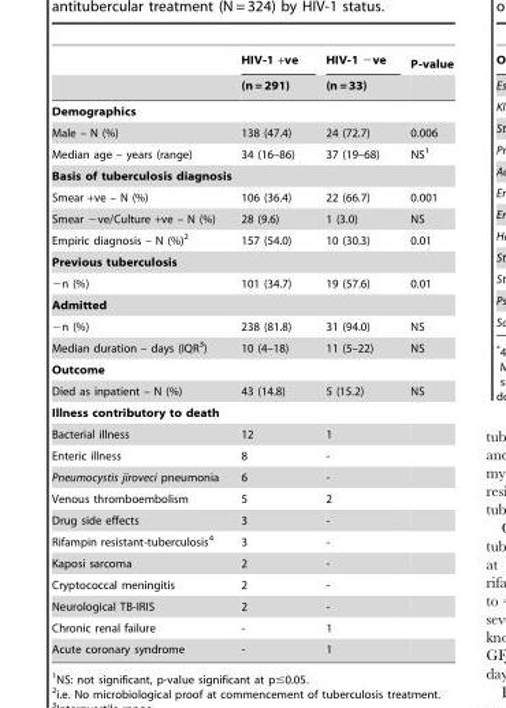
<table><thead><tr><td rowspan="2"></td><td rowspan="2">HIV-1 +ve (n = 291)</td><td rowspan="2">HIV-1 −ve (n = 33)</td><td rowspan="2">P-value</td></tr><tr></tr></thead><tbody><tr><td colspan="4">Demographics</td></tr><tr><td>Male – N (%)</td><td>138 (47.4)</td><td>24 (72.7)</td><td>0.006</td></tr><tr><td>Median age – years (range)</td><td>34 (16–86)</td><td>37 (19–68)</td><td>NS<sup>1</sup></td></tr><tr><td colspan="4">Basis of tuberculosis diagnosis</td></tr><tr><td>Smear +ve – N (%)</td><td>106 (36.4)</td><td>22 (66.7)</td><td>0.001</td></tr><tr><td>Smear −ve/Culture +ve – N (%)</td><td>28 (9.6)</td><td>1 (3.0)</td><td>NS</td></tr><tr><td>Empiric diagnosis – N (%)<sup>2</sup></td><td>157 (54.0)</td><td>10 (30.3)</td><td>0.01</td></tr><tr><td colspan="4">Previous tuberculosis</td></tr><tr><td>−n (%)</td><td>101 (34.7)</td><td>19 (57.6)</td><td>0.01</td></tr><tr><td colspan="4">Admitted</td></tr><tr><td>−n (%)</td><td>238 (81.8)</td><td>31 (94.0)</td><td>NS</td></tr><tr><td>Median duration – days (IQR<sup>3</sup>)</td><td>10 (4–18)</td><td>11 (5–22)</td><td>NS</td></tr><tr><td colspan="4">Outcome</td></tr><tr><td>Died as inpatient – N (%)</td><td>43 (14.8)</td><td>5 (15.2)</td><td>NS</td></tr><tr><td colspan="4">Illness contributory to death</td></tr><tr><td>Bacterial illness</td><td>12</td><td>1</td><td></td></tr><tr><td>Enteric illness</td><td>8</td><td>-</td><td></td></tr><tr><td>Pneumocystis jiroveci pneumonia</td><td>6</td><td>-</td><td></td></tr><tr><td>Venous thromboembolism</td><td>5</td><td>2</td><td></td></tr><tr><td>Drug side effects</td><td>3</td><td>-</td><td></td></tr><tr><td>Rifampin resistant-tuberculosis<sup>4</sup></td><td>3</td><td>-</td><td></td></tr><tr><td>Kaposi sarcoma</td><td>2</td><td>-</td><td></td></tr><tr><td>Cryptococcal meningitis</td><td>2</td><td>-</td><td></td></tr><tr><td>Neurological TB-IRIS</td><td>2</td><td>-</td><td></td></tr><tr><td>Chronic renal failure</td><td>-</td><td>1</td><td></td></tr><tr><td>Acute coronary syndrome</td><td>-</td><td>1</td><td></td></tr></tbody></table>